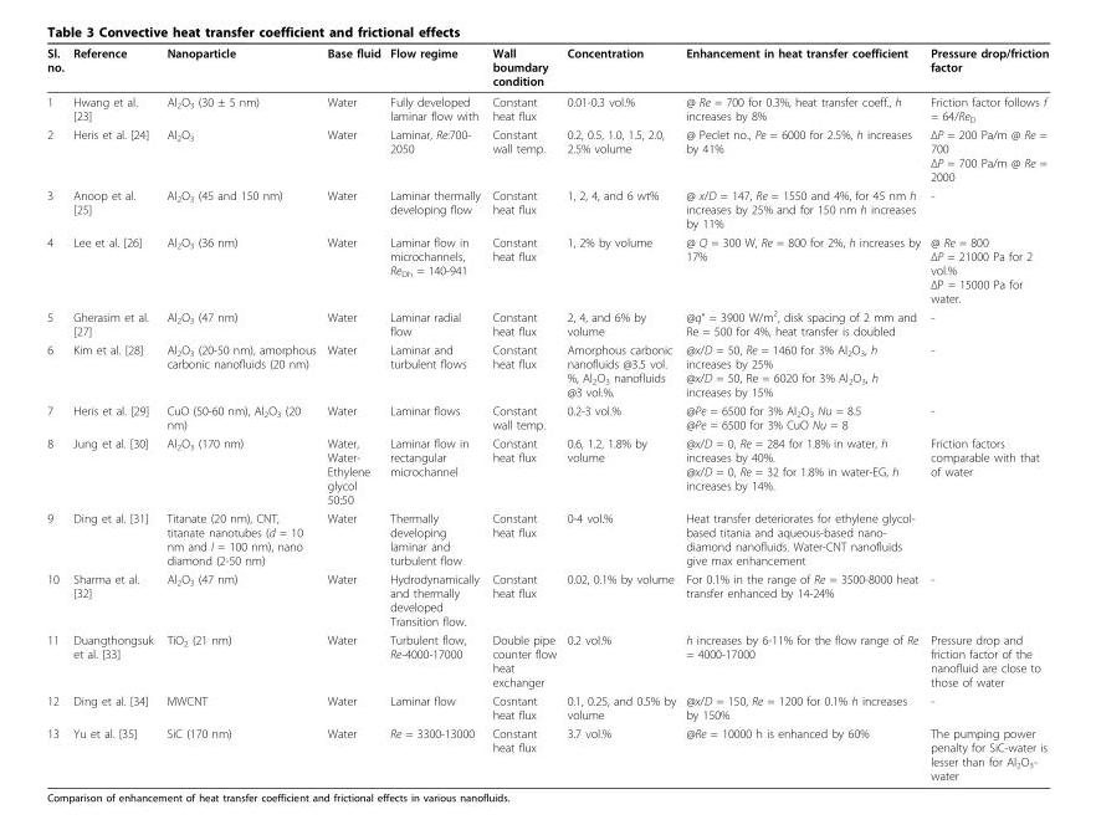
<table><thead><tr><td>Sl. no.</td><td>Reference</td><td>Nanoparticle</td><td>Base fluid</td><td>Flow regime</td><td>Wall boumdary condition</td><td>Concentration</td><td>Enhancement in heat transfer coefficient</td><td>Pressure drop/friction factor</td></tr></thead><tbody><tr><td>1</td><td>Hwang et al. [23]</td><td>Al<sub>2</sub>O<sub>3</sub> (30 ± 5 nm)</td><td>Water</td><td>Fully developed laminar flow with</td><td>Constant heat flux</td><td>0.01-0.3 vol.%</td><td>@ Re = 700 for 0.3%, heat transfer coeff., h increases by 8%</td><td>Friction factor follows f = 64/Re<sub>D</sub></td></tr><tr><td>2</td><td>Heris et al. [24]</td><td>Al<sub>2</sub>O<sub>3</sub></td><td>Water</td><td>Laminar, Re:700- 2050</td><td>Constant wall temp.</td><td>0.2, 0.5, 1.0, 1.5, 2.0, 2.5% volume</td><td>@ Peclet no., Pe = 6000 for 2.5%, h increases by 41%</td><td>ΔP = 200 Pa/m @ Re = 700 ΔP = 700 Pa/m @ Re = 2000</td></tr><tr><td>3</td><td>Anoop et al. [25]</td><td>Al<sub>2</sub>O<sub>3</sub> (45 and 150 nm)</td><td>Water</td><td>Laminar thermally developing flow</td><td>Constant heat flux</td><td>1, 2, 4, and 6 wt%</td><td>@ x/D = 147, Re = 1550 and 4%, for 45 nm h increases by 25% and for 150 nm h increases by 11%</td><td>-</td></tr><tr><td>4</td><td>Lee et al. [26]</td><td>Al<sub>2</sub>O<sub>3</sub> (36 nm)</td><td>Water</td><td>Laminar flow in microchannels, Re<sub>Dh</sub> = 140-941</td><td>Constant heat flux</td><td>1, 2% by volume</td><td>@ Q = 300 W, Re = 800 for 2%, h increases by 17%</td><td>@ Re = 800 ΔP = 21000 Pa for 2 vol.% ΔP = 15000 Pa for water.</td></tr><tr><td>5</td><td>Gherasim et al. [27]</td><td>Al<sub>2</sub>O<sub>3</sub> (47 nm)</td><td>Water</td><td>Laminar radial flow</td><td>Constant heat flux</td><td>2, 4, and 6% by volume</td><td>@q“ = 3900 W/m2, disk spacing of 2 mm and Re = 500 for 4%, heat transfer is doubled</td><td>-</td></tr><tr><td>6</td><td>Kim et al. [28]</td><td>Al<sub>2</sub>O<sub>3</sub> (20-50 nm), amorphous carbonic nanofluids (20 nm)</td><td>Water</td><td>Laminar and turbulent flows</td><td>Constant heat flux</td><td>Amorphous carbonic nanofluids @3.5 vol. %, Al<sub>2</sub>O<sub>3</sub> nanofluids @3 vol.%.</td><td>@x/D = 50, Re = 1460 for 3% Al<sub>2</sub>O<sub>3</sub>, h increases by 25% @x/D = 50, Re = 6020 for 3% Al<sub>2</sub>O<sub>3</sub>, h increases by 15%</td><td>-</td></tr><tr><td>7</td><td>Heris et al. [29]</td><td>CuO (50-60 nm), Al<sub>2</sub>O<sub>3</sub> (20 nm)</td><td>Water</td><td>Laminar flows</td><td>Constant wall temp.</td><td>0.2-3 vol.%</td><td>@Pe = 6500 for 3% Al<sub>2</sub>O<sub>3</sub> Nu = 8.5 @Pe = 6500 for 3% CuO Nu = 8</td><td>-</td></tr><tr><td>8</td><td>Jung et al. [30]</td><td>Al<sub>2</sub>O<sub>3</sub> (170 nm)</td><td>Water, Water- Ethylene glycol 50:50</td><td>Laminar flow in rectangular microchannel</td><td>Constant heat flux</td><td>0.6, 1.2, 1.8% by volume</td><td>@x/D = 0, Re = 284 for 1.8% in water, h increases by 40%. @x/D = 0, Re = 32 for 1.8% in water-EG, h increases by 14%.</td><td>Friction factors comparable with that of water</td></tr><tr><td>9</td><td>Ding et al. [31]</td><td>Titanate (20 nm), CNT, titanate nanotubes (d = 10 nm and l = 100 nm), nano diamond (2-50 nm)</td><td>Water</td><td>Thermally developing laminar and turbulent flow</td><td>Constant heat flux</td><td>0-4 vol.%</td><td>Heat transfer deteriorates for ethylene glycol- based titania and aqueous-based nano- diamond nanofluids. Water-CNT nanofluids give max enhancement</td><td></td></tr><tr><td>10</td><td>Sharma et al. [32]</td><td>Al<sub>2</sub>O<sub>3</sub> (47 nm)</td><td>Water</td><td>Hydrodynamically and thermally developed Transition flow.</td><td>Constant heat flux</td><td>0.02, 0.1% by volume</td><td>For 0.1% in the range of Re = 3500-8000 heat transfer enhanced by 14-24%</td><td>-</td></tr><tr><td>11</td><td>Duangthongsuk et al. [33]</td><td>TiO<sub>2</sub> (21 nm)</td><td>Water</td><td>Turbulent flow, Re-4000-17000</td><td>Double pipe counter flow heat exchanger</td><td>0.2 vol.%</td><td>h increases by 6-11% for the flow range of Re = 4000-17000</td><td>Pressure drop and friction factor of the nanofluid are close to those of water</td></tr><tr><td>12</td><td>Ding et al. [34]</td><td>MWCNT</td><td>Water</td><td>Laminar flow</td><td>Cosntant heat flux</td><td>0.1, 0.25, and 0.5% by volume</td><td>@x/D = 150, Re = 1200 for 0.1% h increases by 150%</td><td>-</td></tr><tr><td>13</td><td>Yu et al. [35]</td><td>SiC (170 nm)</td><td>Water</td><td>Re = 3300-13000</td><td>Constant heat flux</td><td>3.7 vol.%</td><td>@Re = 10000 h is enhanced by 60%</td><td>The pumping power penalty for SiC-water is lesser than for Al<sub>2</sub>O<sub>3</sub>- water</td></tr></tbody></table>